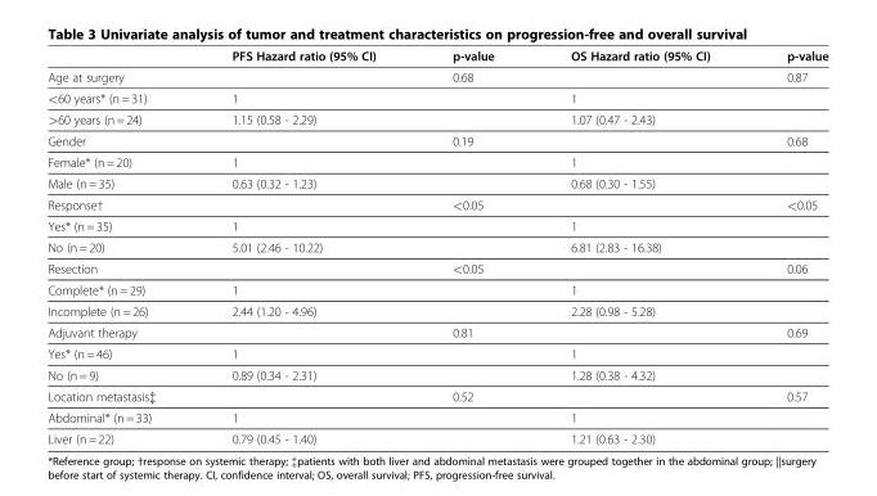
<table><thead><tr><td></td><td>PFS Hazard ratio (95% CI)</td><td>p-value</td><td>OS Hazard ratio (95% CI)</td><td>p-value</td></tr></thead><tbody><tr><td>Age at surgery</td><td></td><td>0.68</td><td></td><td>0.87</td></tr><tr><td>&lt;60 years* (n = 31)</td><td>1</td><td></td><td>1</td><td></td></tr><tr><td>&gt;60 years (n = 24)</td><td>1.15 (0.58 - 2.29)</td><td></td><td>1.07 (0.47 - 2.43)</td><td></td></tr><tr><td>Gender</td><td></td><td>0.19</td><td></td><td>0.68</td></tr><tr><td>Female* (n = 20)</td><td>1</td><td></td><td>1</td><td></td></tr><tr><td>Male (n = 35)</td><td>0.63 (0.32 - 1.23)</td><td></td><td>0.68 (0.30 - 1.55)</td><td></td></tr><tr><td>Response†</td><td></td><td>&lt;0.05</td><td></td><td>&lt;0.05</td></tr><tr><td>Yes* (n = 35)</td><td>1</td><td></td><td>1</td><td></td></tr><tr><td>No (n = 20)</td><td>5.01 (2.46 - 10.22)</td><td></td><td>6.81 (2.83 - 16.38)</td><td></td></tr><tr><td>Resection</td><td></td><td>&lt;0.05</td><td></td><td>0.06</td></tr><tr><td>Complete* (n = 29)</td><td>1</td><td></td><td>1</td><td></td></tr><tr><td>Incomplete (n = 26)</td><td>2.44 (1.20 - 4.96)</td><td></td><td>2.28 (0.98 - 5.28)</td><td></td></tr><tr><td>Adjuvant therapy</td><td></td><td>0.81</td><td></td><td>0.69</td></tr><tr><td>Yes* (n = 46)</td><td>1</td><td></td><td>1</td><td></td></tr><tr><td>No (n = 9)</td><td>0.89 (0.34 - 2.31)</td><td></td><td>1.28 (0.38 - 4.32)</td><td></td></tr><tr><td>Location metastasis‡</td><td></td><td>0.52</td><td></td><td>0.57</td></tr><tr><td>Abdominal* (n = 33)</td><td>1</td><td></td><td>1</td><td></td></tr><tr><td>Liver (n = 22)</td><td>0.79 (0.45 - 1.40)</td><td></td><td>1.21 (0.63 - 2.30)</td><td></td></tr></tbody></table>